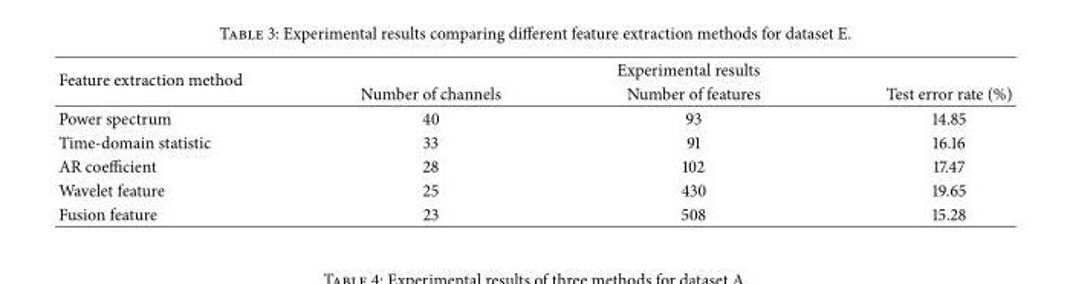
<table><thead><tr><td rowspan="2">Feature extraction method</td><td colspan="3">Experimental results</td></tr><tr><td>Number of channels</td><td>Number of features</td><td>Test error rate (%)</td></tr></thead><tbody><tr><td>Power spectrum</td><td>40</td><td>93</td><td>14.85</td></tr><tr><td>Time-domain statistic</td><td>33</td><td>91</td><td>16.16</td></tr><tr><td>AR coefficient</td><td>28</td><td>102</td><td>17.47</td></tr><tr><td>Wavelet feature</td><td>25</td><td>430</td><td>19.65</td></tr><tr><td>Fusion feature</td><td>23</td><td>508</td><td>15.28</td></tr></tbody></table>